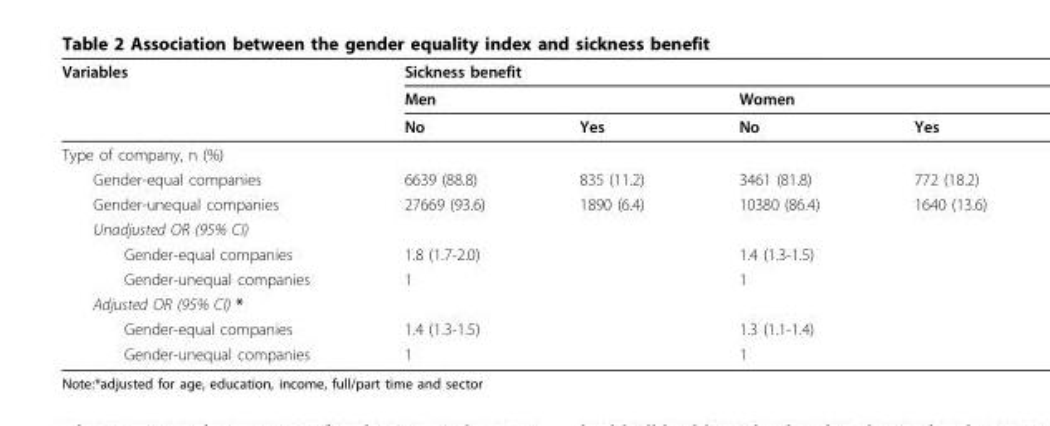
<table><thead><tr><td rowspan="3">Variables</td><td colspan="4">Sickness benefit</td></tr><tr><td colspan="2">Men</td><td colspan="2">Women</td></tr><tr><td>No</td><td>Yes</td><td>No</td><td>Yes</td></tr></thead><tbody><tr><td colspan="5">Type of company, n (%)</td></tr><tr><td>Gender-equal companies</td><td>6639 (88.8)</td><td>835 (11.2)</td><td>3461 (81.8)</td><td>772 (18.2)</td></tr><tr><td>Gender-unequal companies</td><td>27669 (93.6)</td><td>1890 (6.4)</td><td>10380 (86.4)</td><td>1640 (13.6)</td></tr><tr><td colspan="5">Unadjusted OR (95% CI)</td></tr><tr><td>Gender-equal companies</td><td colspan="2">1.8 (1.7-2.0)</td><td colspan="2">1.4 (1.3-1.5)</td></tr><tr><td>Gender-unequal companies</td><td colspan="2">1</td><td colspan="2">1</td></tr><tr><td colspan="5">Adjusted OR (95% CI) *</td></tr><tr><td>Gender-equal companies</td><td colspan="2">1.4 (1.3-1.5)</td><td colspan="2">1.3 (1.1-1.4)</td></tr><tr><td>Gender-unequal companies</td><td colspan="2">1</td><td colspan="2">1</td></tr></tbody></table>